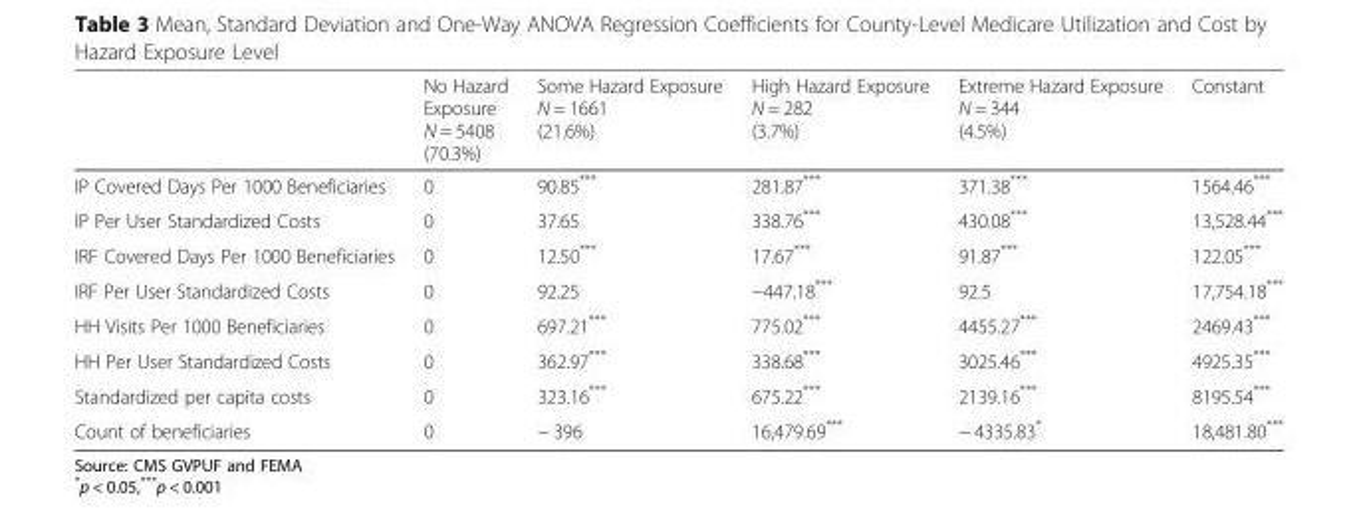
<table><thead><tr><td></td><td>No Hazard Exposure N = 5408 (70.3%)</td><td>Some Hazard Exposure N = 1661 (21.6%)</td><td>High Hazard Exposure N = 282 (3.7%)</td><td>Extreme Hazard Exposure N = 344 (4.5%)</td><td>Constant</td></tr></thead><tbody><tr><td>IP Covered Days Per 1000 Beneficiaries</td><td>0</td><td>90.85***</td><td>281.87***</td><td>371.38***</td><td>1564.46***</td></tr><tr><td>IP Per User Standardized Costs</td><td>0</td><td>37.65</td><td>338.76***</td><td>430.08***</td><td>13,528.44***</td></tr><tr><td>IRF Covered Days Per 1000 Beneficiaries</td><td>0</td><td>12.50***</td><td>17.67***</td><td>91.87***</td><td>122.05***</td></tr><tr><td>IRF Per User Standardized Costs</td><td>0</td><td>92.25</td><td>−447.18***</td><td>92.5</td><td>17,754.18***</td></tr><tr><td>HH Visits Per 1000 Beneficiaries</td><td>0</td><td>697.21***</td><td>775.02***</td><td>4455.27***</td><td>2469.43***</td></tr><tr><td>HH Per User Standardized Costs</td><td>0</td><td>362.97***</td><td>338.68***</td><td>3025.46***</td><td>4925.35***</td></tr><tr><td>Standardized per capita costs</td><td>0</td><td>323.16***</td><td>675.22***</td><td>2139.16***</td><td>8195.54***</td></tr><tr><td>Count of beneficiaries</td><td>0</td><td>− 396</td><td>16,479.69***</td><td>− 4335.83*</td><td>18,481.80***</td></tr></tbody></table>